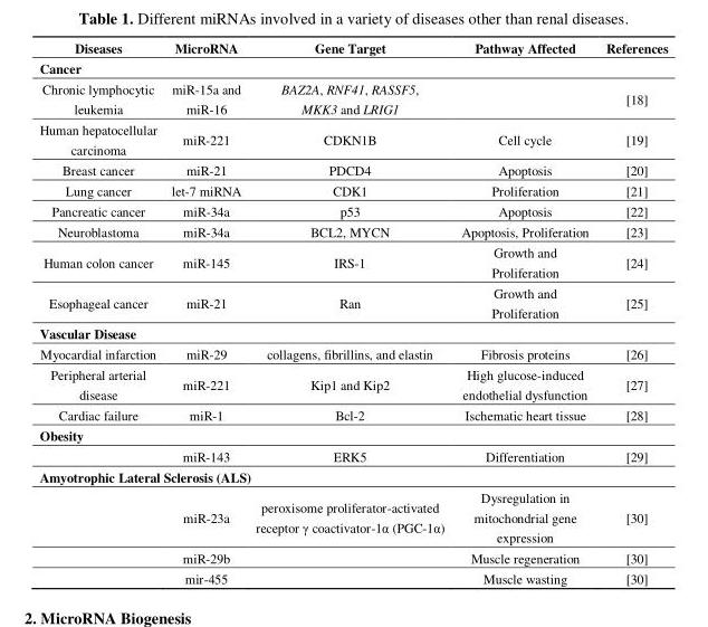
<table><thead><tr><td>Diseases</td><td>MicroRNA</td><td>Gene Target</td><td>Pathway Affected</td><td>References</td></tr></thead><tbody><tr><td colspan="5">Cancer</td></tr><tr><td>Chronic lymphocytic leukemia</td><td>miR-15a and miR-16</td><td>BAZ2A, RNF41, RASSF5, MKK3 and LRIG1</td><td></td><td>[18]</td></tr><tr><td>Human hepatocellular carcinoma</td><td>miR-221</td><td>CDKN1B</td><td>Cell cycle</td><td>[19]</td></tr><tr><td>Breast cancer</td><td>miR-21</td><td>PDCD4</td><td>Apoptosis</td><td>[20]</td></tr><tr><td>Lung cancer</td><td>let-7 miRNA</td><td>CDK1</td><td>Proliferation</td><td>[21]</td></tr><tr><td>Pancreatic cancer</td><td>miR-34a</td><td>p53</td><td>Apoptosis</td><td>[22]</td></tr><tr><td>Neuroblastoma</td><td>miR-34a</td><td>BCL2, MYCN</td><td>Apoptosis, Proliferation</td><td>[23]</td></tr><tr><td>Human colon cancer</td><td>miR-145</td><td>IRS-1</td><td>Growth and Proliferation</td><td>[24]</td></tr><tr><td>Esophageal cancer</td><td>miR-21</td><td>Ran</td><td>Growth and Proliferation</td><td>[25]</td></tr><tr><td colspan="5">Vascular Disease</td></tr><tr><td>Myocardial infarction</td><td>miR-29</td><td>collagens, fibrillins, and elastin</td><td>Fibrosis proteins</td><td>[26]</td></tr><tr><td>Peripheral arterial disease</td><td>miR-221</td><td>Kip1 and Kip2</td><td>High glucose-induced endothelial dysfunction</td><td>[27]</td></tr><tr><td>Cardiac failure</td><td>miR-1</td><td>Bcl-2</td><td>Ischematic heart tissue</td><td>[28]</td></tr><tr><td colspan="5">Obesity</td></tr><tr><td></td><td>miR-143</td><td>ERK5</td><td>Differentiation</td><td>[29]</td></tr><tr><td colspan="5">Amyotrophic Lateral Sclerosis (ALS)</td></tr><tr><td></td><td>miR-23a</td><td>peroxisome proliferator-activated receptor γ coactivator-1α (PGC-1α)</td><td>Dysregulation in mitochondrial gene expression</td><td>[30]</td></tr><tr><td></td><td>miR-29b</td><td></td><td>Muscle regeneration</td><td>[30]</td></tr><tr><td></td><td>mir-455</td><td></td><td>Muscle wasting</td><td>[30]</td></tr></tbody></table>